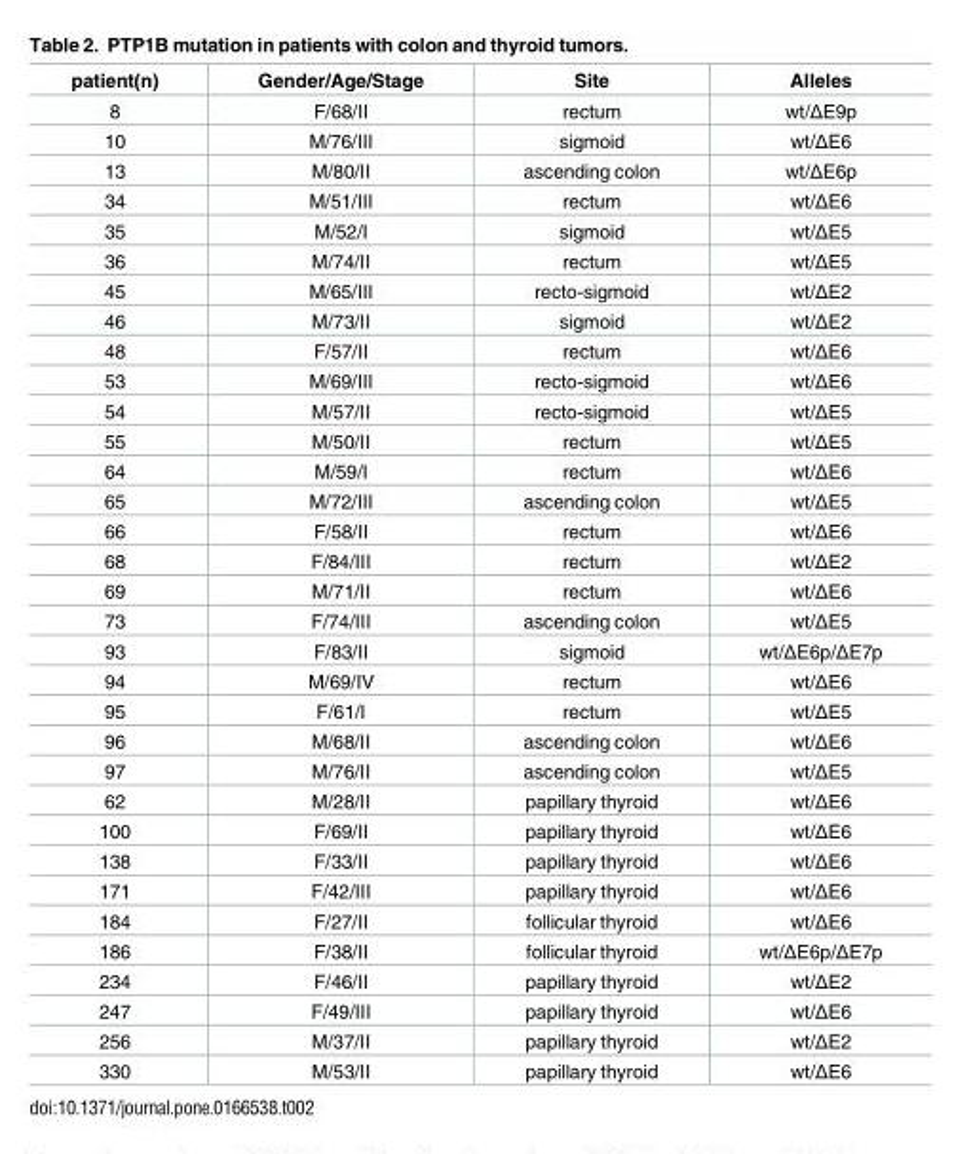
<table><thead><tr><td>patient(n)</td><td>Gender/Age/Stage</td><td>Site</td><td>Alleles</td></tr></thead><tbody><tr><td>8</td><td>F/68/II</td><td>rectum</td><td>wt/ΔE9p</td></tr><tr><td>10</td><td>M/76/III</td><td>sigmoid</td><td>wt/ΔE6</td></tr><tr><td>13</td><td>M/80/II</td><td>ascending colon</td><td>wt/ΔE6p</td></tr><tr><td>34</td><td>M/51/III</td><td>rectum</td><td>wt/ΔE6</td></tr><tr><td>35</td><td>M/52/I</td><td>sigmoid</td><td>wt/ΔE5</td></tr><tr><td>36</td><td>M/74/II</td><td>rectum</td><td>wt/ΔE5</td></tr><tr><td>45</td><td>M/65/III</td><td>recto-sigmoid</td><td>wt/ΔE2</td></tr><tr><td>46</td><td>M/73/II</td><td>sigmoid</td><td>wt/ΔE2</td></tr><tr><td>48</td><td>F/57/II</td><td>rectum</td><td>wt/ΔE6</td></tr><tr><td>53</td><td>M/69/III</td><td>recto-sigmoid</td><td>wt/ΔE6</td></tr><tr><td>54</td><td>M/57/II</td><td>recto-sigmoid</td><td>wt/ΔE5</td></tr><tr><td>55</td><td>M/50/II</td><td>rectum</td><td>wt/ΔE5</td></tr><tr><td>64</td><td>M/59/I</td><td>rectum</td><td>wt/ΔE6</td></tr><tr><td>65</td><td>M/72/III</td><td>ascending colon</td><td>wt/ΔE5</td></tr><tr><td>66</td><td>F/58/II</td><td>rectum</td><td>wt/ΔE6</td></tr><tr><td>68</td><td>F/84/III</td><td>rectum</td><td>wt/ΔE2</td></tr><tr><td>69</td><td>M/71/II</td><td>rectum</td><td>wt/ΔE6</td></tr><tr><td>73</td><td>F/74/III</td><td>ascending colon</td><td>wt/ΔE5</td></tr><tr><td>93</td><td>F/83/II</td><td>sigmoid</td><td>wt/ΔE6p/ΔE7p</td></tr><tr><td>94</td><td>M/69/IV</td><td>rectum</td><td>wt/ΔE6</td></tr><tr><td>95</td><td>F/61/I</td><td>rectum</td><td>wt/ΔE5</td></tr><tr><td>96</td><td>M/68/II</td><td>ascending colon</td><td>wt/ΔE6</td></tr><tr><td>97</td><td>M/76/II</td><td>ascending colon</td><td>wt/ΔE5</td></tr><tr><td>62</td><td>M/28/II</td><td>papillary thyroid</td><td>wt/ΔE6</td></tr><tr><td>100</td><td>F/69/II</td><td>papillary thyroid</td><td>wt/ΔE6</td></tr><tr><td>138</td><td>F/33/II</td><td>papillary thyroid</td><td>wt/ΔE6</td></tr><tr><td>171</td><td>F/42/III</td><td>papillary thyroid</td><td>wt/ΔE6</td></tr><tr><td>184</td><td>F/27/II</td><td>follicular thyroid</td><td>wt/ΔE6</td></tr><tr><td>186</td><td>F/38/II</td><td>follicular thyroid</td><td>wt/ΔE6p/ΔE7p</td></tr><tr><td>234</td><td>F/46/II</td><td>papillary thyroid</td><td>wt/ΔE2</td></tr><tr><td>247</td><td>F/49/III</td><td>papillary thyroid</td><td>wt/ΔE6</td></tr><tr><td>256</td><td>M/37/II</td><td>papillary thyroid</td><td>wt/ΔE2</td></tr><tr><td>330</td><td>M/53/II</td><td>papillary thyroid</td><td>wt/ΔE6</td></tr></tbody></table>